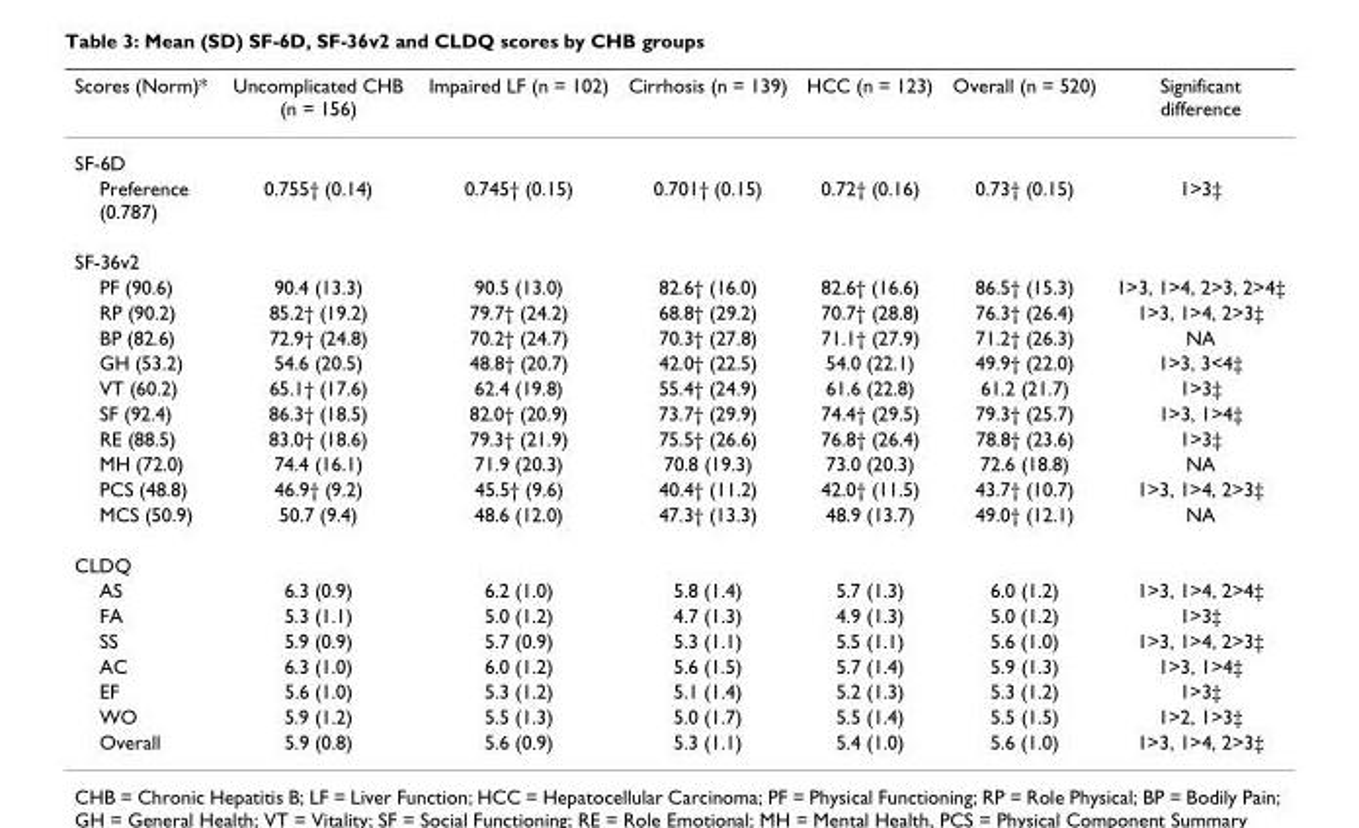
<table><thead><tr><td>Scores (Norm)*</td><td>Uncomplicated CHB (n = 156)</td><td>Impaired LF (n = 102)</td><td>Cirrhosis (n = 139)</td><td>HCC (n = 123)</td><td>Overall (n = 520)</td><td>Significant difference</td></tr></thead><tbody><tr><td colspan="7">SF-6D</td></tr><tr><td>Preference (0.787)</td><td>0.755† (0.14)</td><td>0.745† (0.15)</td><td>0.701† (0.15)</td><td>0.72† (0.16)</td><td>0.73† (0.15)</td><td>1&gt;3‡</td></tr><tr><td colspan="7">SF-36v2</td></tr><tr><td>PF (90.6)</td><td>90.4 (13.3)</td><td>90.5 (13.0)</td><td>82.6† (16.0)</td><td>82.6† (16.6)</td><td>86.5† (15.3)</td><td>1&gt;3, 1&gt;4, 2&gt;3, 2&gt;4‡</td></tr><tr><td>RP (90.2)</td><td>85.2† (19.2)</td><td>79.7† (24.2)</td><td>68.8† (29.2)</td><td>70.7† (28.8)</td><td>76.3† (26.4)</td><td>1&gt;3, 1&gt;4, 2&gt;3‡</td></tr><tr><td>BP (82.6)</td><td>72.9† (24.8)</td><td>70.2† (24.7)</td><td>70.3† (27.8)</td><td>71.1† (27.9)</td><td>71.2† (26.3)</td><td>NA</td></tr><tr><td>GH (53.2)</td><td>54.6 (20.5)</td><td>48.8† (20.7)</td><td>42.0† (22.5)</td><td>54.0 (22.1)</td><td>49.9† (22.0)</td><td>1&gt;3, 3&lt;4‡</td></tr><tr><td>VT (60.2)</td><td>65.1† (17.6)</td><td>62.4 (19.8)</td><td>55.4† (24.9)</td><td>61.6 (22.8)</td><td>61.2 (21.7)</td><td>1&gt;3‡</td></tr><tr><td>SF (92.4)</td><td>86.3† (18.5)</td><td>82.0† (20.9)</td><td>73.7† (29.9)</td><td>74.4† (29.5)</td><td>79.3† (25.7)</td><td>1&gt;3, 1&gt;4‡</td></tr><tr><td>RE (88.5)</td><td>83.0† (18.6)</td><td>79.3† (21.9)</td><td>75.5† (26.6)</td><td>76.8† (26.4)</td><td>78.8† (23.6)</td><td>1&gt;3‡</td></tr><tr><td>MH (72.0)</td><td>74.4 (16.1)</td><td>71.9 (20.3)</td><td>70.8 (19.3)</td><td>73.0 (20.3)</td><td>72.6 (18.8)</td><td>NA</td></tr><tr><td>PCS (48.8)</td><td>46.9† (9.2)</td><td>45.5† (9.6)</td><td>40.4† (11.2)</td><td>42.0† (11.5)</td><td>43.7† (10.7)</td><td>1&gt;3, 1&gt;4, 2&gt;3‡</td></tr><tr><td>MCS (50.9)</td><td>50.7 (9.4)</td><td>48.6 (12.0)</td><td>47.3† (13.3)</td><td>48.9 (13.7)</td><td>49.0† (12.1)</td><td>NA</td></tr><tr><td colspan="7">CLDQ</td></tr><tr><td>AS</td><td>6.3 (0.9)</td><td>6.2 (1.0)</td><td>5.8 (1.4)</td><td>5.7 (1.3)</td><td>6.0 (1.2)</td><td>1&gt;3, 1&gt;4, 2&gt;4‡</td></tr><tr><td>FA</td><td>5.3 (1.1)</td><td>5.0 (1.2)</td><td>4.7 (1.3)</td><td>4.9 (1.3)</td><td>5.0 (1.2)</td><td>1&gt;3‡</td></tr><tr><td>SS</td><td>5.9 (0.9)</td><td>5.7 (0.9)</td><td>5.3 (1.1)</td><td>5.5 (1.1)</td><td>5.6 (1.0)</td><td>1&gt;3, 1&gt;4, 2&gt;3‡</td></tr><tr><td>AC</td><td>6.3 (1.0)</td><td>6.0 (1.2)</td><td>5.6 (1.5)</td><td>5.7 (1.4)</td><td>5.9 (1.3)</td><td>1&gt;3, 1&gt;4‡</td></tr><tr><td>EF</td><td>5.6 (1.0)</td><td>5.3 (1.2)</td><td>5.1 (1.4)</td><td>5.2 (1.3)</td><td>5.3 (1.2)</td><td>1&gt;3‡</td></tr><tr><td>WO</td><td>5.9 (1.2)</td><td>5.5 (1.3)</td><td>5.0 (1.7)</td><td>5.5 (1.4)</td><td>5.5 (1.5)</td><td>1&gt;2, 1&gt;3‡</td></tr><tr><td>Overall</td><td>5.9 (0.8)</td><td>5.6 (0.9)</td><td>5.3 (1.1)</td><td>5.4 (1.0)</td><td>5.6 (1.0)</td><td>1&gt;3, 1&gt;4, 2&gt;3‡</td></tr></tbody></table>